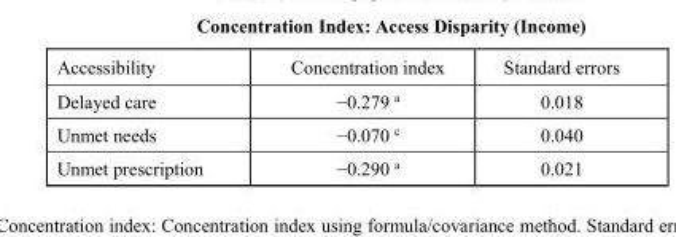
<table><tbody><tr><td>Accessibility</td><td>Concentration index</td><td>Standard errors</td></tr><tr><td>Delayed care</td><td>−0.279 <sup>a</sup></td><td>0.018</td></tr><tr><td>Unmet needs</td><td>−0.070 <sup>c</sup></td><td>0.040</td></tr><tr><td>Unmet prescription</td><td>−0.290 <sup>a</sup></td><td>0.021</td></tr></tbody></table>